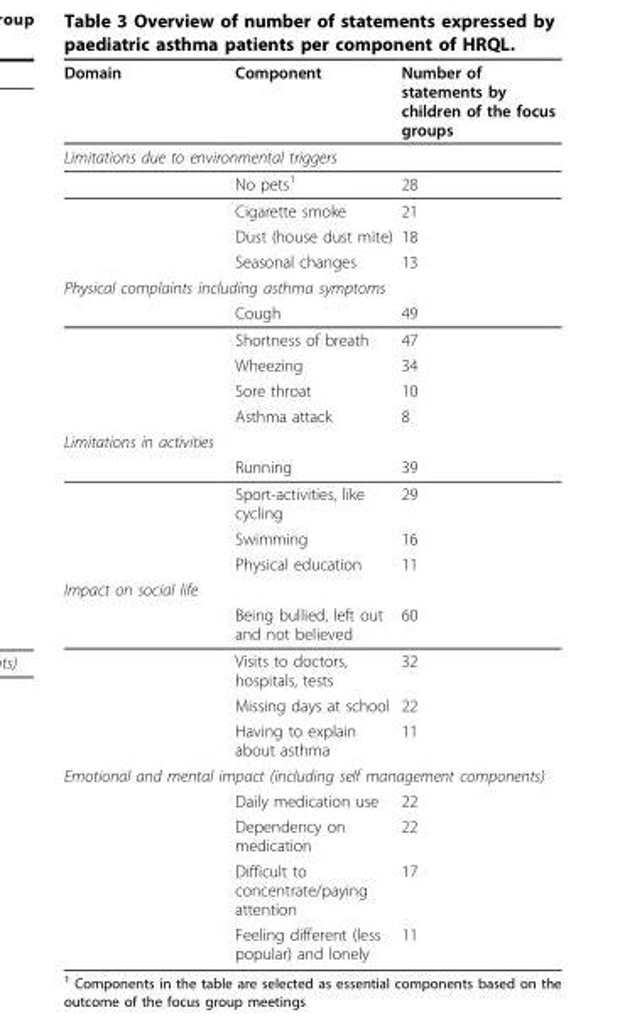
<table><thead><tr><td>Domain</td><td>Component</td><td>Number of statements by children of the focus groups</td></tr></thead><tbody><tr><td colspan="3">Limitations due to environmental triggers</td></tr><tr><td></td><td>No pets<sup>1</sup></td><td>28</td></tr><tr><td></td><td>Cigarette smoke</td><td>21</td></tr><tr><td></td><td>Dust (house dust mite)</td><td>18</td></tr><tr><td></td><td>Seasonal changes</td><td>13</td></tr><tr><td colspan="3">Physical complaints including asthma symptoms</td></tr><tr><td></td><td>Cough</td><td>49</td></tr><tr><td></td><td>Shortness of breath</td><td>47</td></tr><tr><td></td><td>Wheezing</td><td>34</td></tr><tr><td></td><td>Sore throat</td><td>10</td></tr><tr><td></td><td>Asthma attack</td><td>8</td></tr><tr><td colspan="3">Limitations in activities</td></tr><tr><td></td><td>Running</td><td>39</td></tr><tr><td></td><td>Sport-activities, like cycling</td><td>29</td></tr><tr><td></td><td>Swimming</td><td>16</td></tr><tr><td></td><td>Physical education</td><td>11</td></tr><tr><td colspan="3">Impact on social life</td></tr><tr><td></td><td>Being bullied, left out and not believed</td><td>60</td></tr><tr><td></td><td>Visits to doctors, hospitals, tests</td><td>32</td></tr><tr><td></td><td>Missing days at school</td><td>22</td></tr><tr><td></td><td>Having to explain about asthma</td><td>11</td></tr><tr><td colspan="3">Emotional and mental impact (including self management components)</td></tr><tr><td></td><td>Daily medication use</td><td>22</td></tr><tr><td></td><td>Dependency on medication</td><td>22</td></tr><tr><td></td><td>Difficult to concentrate/paying attention</td><td>17</td></tr><tr><td></td><td>Feeling different (less popular) and lonely</td><td>11</td></tr></tbody></table>